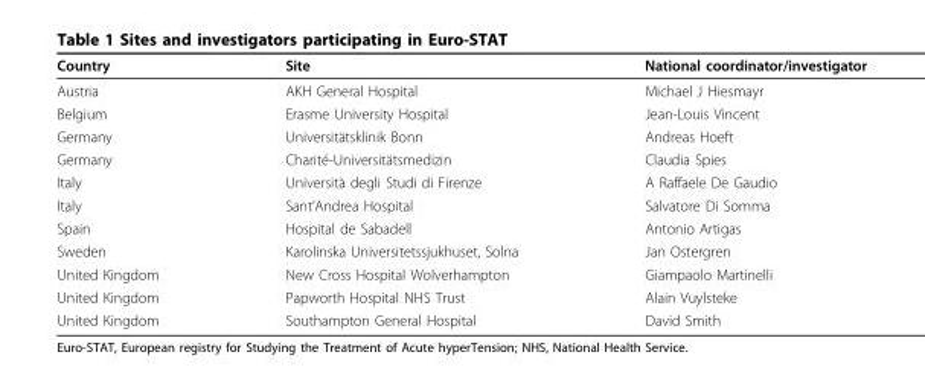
<table><thead><tr><td>Country</td><td>Site</td><td>National coordinator/investigator</td></tr></thead><tbody><tr><td>Austria</td><td>AKH General Hospital</td><td>Michael J Hiesmayr</td></tr><tr><td>Belgium</td><td>Erasme University Hospital</td><td>Jean-Louis Vincent</td></tr><tr><td>Germany</td><td>Universitätsklinik Bonn</td><td>Andreas Hoeft</td></tr><tr><td>Germany</td><td>Charité-Universitätsmedizin</td><td>Claudia Spies</td></tr><tr><td>Italy</td><td>Università degli Studi di Firenze</td><td>A Raffaele De Gaudio</td></tr><tr><td>Italy</td><td>Sant’Andrea Hospital</td><td>Salvatore Di Somma</td></tr><tr><td>Spain</td><td>Hospital de Sabadell</td><td>Antonio Artigas</td></tr><tr><td>Sweden</td><td>Karolinska Universitetssjukhuset, Solna</td><td>Jan Ostergren</td></tr><tr><td>United Kingdom</td><td>New Cross Hospital Wolverhampton</td><td>Giampaolo Martinelli</td></tr><tr><td>United Kingdom</td><td>Papworth Hospital NHS Trust</td><td>Alain Vuylsteke</td></tr><tr><td>United Kingdom</td><td>Southampton General Hospital</td><td>David Smith</td></tr></tbody></table>